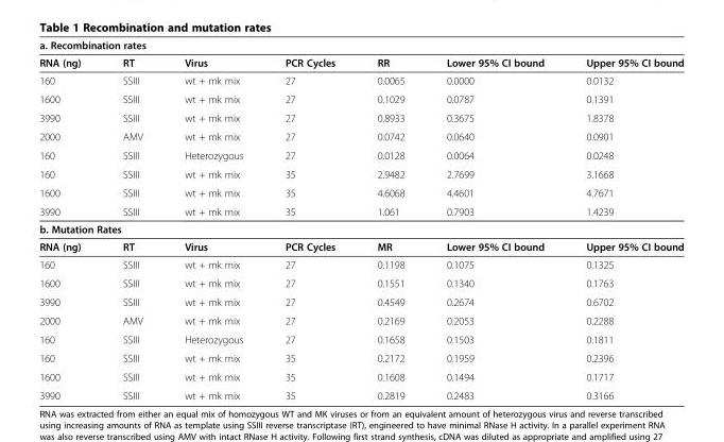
<table><thead><tr><td colspan="7">a. Recombination rates</td></tr><tr><td>RNA (ng)</td><td>RT</td><td>Virus</td><td>PCR Cycles</td><td>RR</td><td>Lower 95% CI bound</td><td>Upper 95% CI bound</td></tr></thead><tbody><tr><td>160</td><td>SSIII</td><td>wt + mk mix</td><td>27</td><td>0.0065</td><td>0.0000</td><td>0.0132</td></tr><tr><td>1600</td><td>SSIII</td><td>wt + mk mix</td><td>27</td><td>0.1029</td><td>0.0787</td><td>0.1391</td></tr><tr><td>3990</td><td>SSIII</td><td>wt + mk mix</td><td>27</td><td>0.8933</td><td>0.3675</td><td>1.8378</td></tr><tr><td>2000</td><td>AMV</td><td>wt + mk mix</td><td>27</td><td>0.0742</td><td>0.0640</td><td>0.0901</td></tr><tr><td>160</td><td>SSIII</td><td>Heterozygous</td><td>27</td><td>0.0128</td><td>0.0064</td><td>0.0248</td></tr><tr><td>160</td><td>SSIII</td><td>wt + mk mix</td><td>35</td><td>2.9482</td><td>2.7699</td><td>3.1668</td></tr><tr><td>1600</td><td>SSIII</td><td>wt + mk mix</td><td>35</td><td>4.6068</td><td>4.4601</td><td>4.7671</td></tr><tr><td>3990</td><td>SSIII</td><td>wt + mk mix</td><td>35</td><td>1.061</td><td>0.7903</td><td>1.4239</td></tr><tr><td colspan="7">b. Mutation Rates</td></tr><tr><td>RNA (ng)</td><td>RT</td><td>Virus</td><td>PCR Cycles</td><td>MR</td><td>Lower 95% CI bound</td><td>Upper 95% CI bound</td></tr><tr><td>160</td><td>SSIII</td><td>wt + mk mix</td><td>27</td><td>0.1198</td><td>0.1075</td><td>0.1325</td></tr><tr><td>1600</td><td>SSIII</td><td>wt + mk mix</td><td>27</td><td>0.1551</td><td>0.1340</td><td>0.1763</td></tr><tr><td>3990</td><td>SSIII</td><td>wt + mk mix</td><td>27</td><td>0.4549</td><td>0.2674</td><td>0.6702</td></tr><tr><td>2000</td><td>AMV</td><td>wt + mk mix</td><td>27</td><td>0.2169</td><td>0.2053</td><td>0.2288</td></tr><tr><td>160</td><td>SSIII</td><td>Heterozygous</td><td>27</td><td>0.1658</td><td>0.1503</td><td>0.1811</td></tr><tr><td>160</td><td>SSIII</td><td>wt + mk mix</td><td>35</td><td>0.2172</td><td>0.1959</td><td>0.2396</td></tr><tr><td>1600</td><td>SSIII</td><td>wt + mk mix</td><td>35</td><td>0.1608</td><td>0.1494</td><td>0.1717</td></tr><tr><td>3990</td><td>SSIII</td><td>wt + mk mix</td><td>35</td><td>0.2819</td><td>0.2483</td><td>0.3166</td></tr></tbody></table>